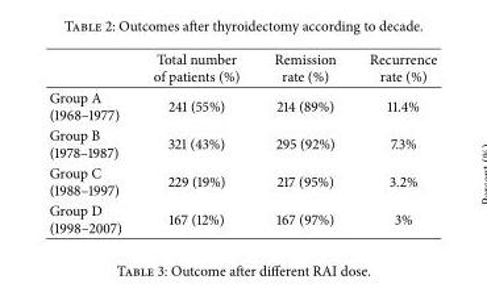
<table><thead><tr><td></td><td>Total number of patients (%)</td><td>Remission rate (%)</td><td>Recurrence rate (%)</td></tr></thead><tbody><tr><td>Group A (1968–1977)</td><td>241 (55%)</td><td>214 (89%)</td><td>11.4%</td></tr><tr><td>Group B (1978–1987)</td><td>321 (43%)</td><td>295 (92%)</td><td>7.3%</td></tr><tr><td>Group C (1988–1997)</td><td>229 (19%)</td><td>217 (95%)</td><td>3.2%</td></tr><tr><td>Group D (1998–2007)</td><td>167 (12%)</td><td>167 (97%)</td><td>3%</td></tr></tbody></table>